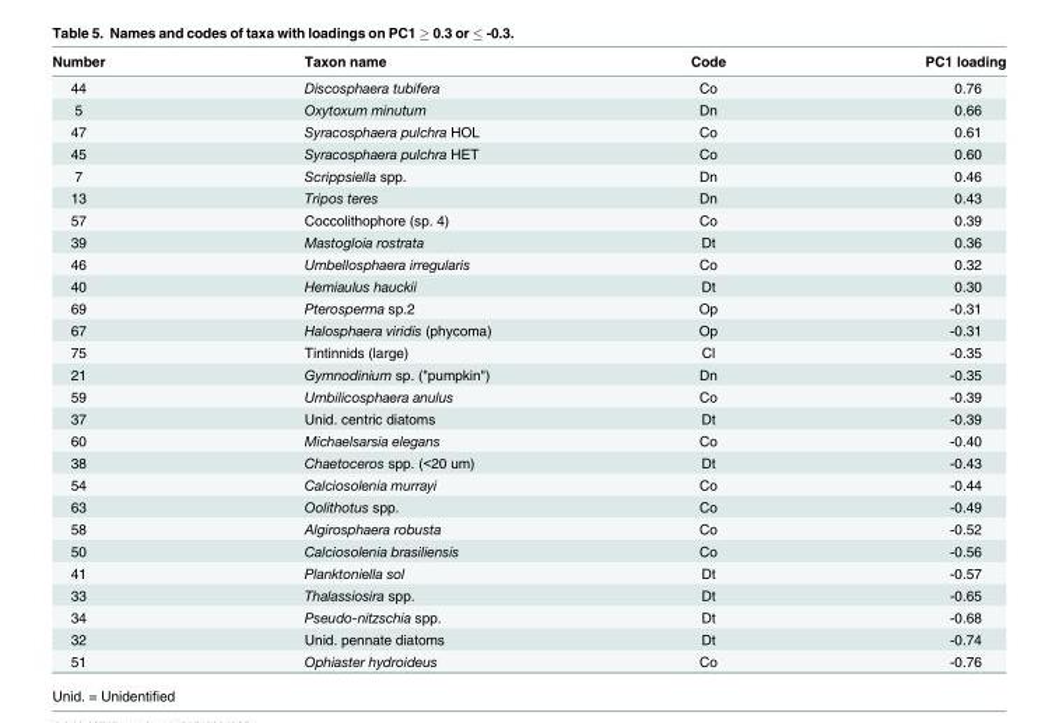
<table><thead><tr><td>Number</td><td>Taxon name</td><td>Code</td><td>PC1 loading</td></tr></thead><tbody><tr><td>44</td><td>Discosphaera tubifera</td><td>Co</td><td>0.76</td></tr><tr><td>5</td><td>Oxytoxum minutum</td><td>Dn</td><td>0.66</td></tr><tr><td>47</td><td>Syracosphaera pulchra HOL</td><td>Co</td><td>0.61</td></tr><tr><td>45</td><td>Syracosphaera pulchra HET</td><td>Co</td><td>0.60</td></tr><tr><td>7</td><td>Scrippsiella spp.</td><td>Dn</td><td>0.46</td></tr><tr><td>13</td><td>Tripos teres</td><td>Dn</td><td>0.43</td></tr><tr><td>57</td><td>Coccolithophore (sp. 4)</td><td>Co</td><td>0.39</td></tr><tr><td>39</td><td>Mastogloia rostrata</td><td>Dt</td><td>0.36</td></tr><tr><td>46</td><td>Umbellosphaera irregularis</td><td>Co</td><td>0.32</td></tr><tr><td>40</td><td>Hemiaulus hauckii</td><td>Dt</td><td>0.30</td></tr><tr><td>69</td><td>Pterosperma sp.2</td><td>Op</td><td>-0.31</td></tr><tr><td>67</td><td>Halosphaera viridis (phycoma)</td><td>Op</td><td>-0.31</td></tr><tr><td>75</td><td>Tintinnids (large)</td><td>Cl</td><td>-0.35</td></tr><tr><td>21</td><td>Gymnodinium sp. (&quot;pumpkin&quot;)</td><td>Dn</td><td>-0.35</td></tr><tr><td>59</td><td>Umbilicosphaera anulus</td><td>Co</td><td>-0.39</td></tr><tr><td>37</td><td>Unid. centric diatoms</td><td>Dt</td><td>-0.39</td></tr><tr><td>60</td><td>Michaelsarsia elegans</td><td>Co</td><td>-0.40</td></tr><tr><td>38</td><td>Chaetoceros spp. (&lt;20 um)</td><td>Dt</td><td>-0.43</td></tr><tr><td>54</td><td>Calciosolenia murrayi</td><td>Co</td><td>-0.44</td></tr><tr><td>63</td><td>Oolithotus spp.</td><td>Co</td><td>-0.49</td></tr><tr><td>58</td><td>Algirosphaera robusta</td><td>Co</td><td>-0.52</td></tr><tr><td>50</td><td>Calciosolenia brasiliensis</td><td>Co</td><td>-0.56</td></tr><tr><td>41</td><td>Planktoniella sol</td><td>Dt</td><td>-0.57</td></tr><tr><td>33</td><td>Thalassiosira spp.</td><td>Dt</td><td>-0.65</td></tr><tr><td>34</td><td>Pseudo-nitzschia spp.</td><td>Dt</td><td>-0.68</td></tr><tr><td>32</td><td>Unid. pennate diatoms</td><td>Dt</td><td>-0.74</td></tr><tr><td>51</td><td>Ophiaster hydroideus</td><td>Co</td><td>-0.76</td></tr></tbody></table>